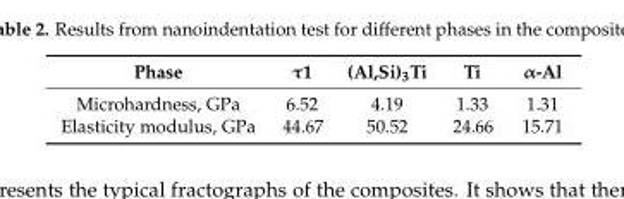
<table><thead><tr><td>Phase</td><td>τ1</td><td>(Al,Si)<sub>3</sub>Ti</td><td>Ti</td><td>α-Al</td></tr></thead><tbody><tr><td>Microhardness, GPa</td><td>6.52</td><td>4.19</td><td>1.33</td><td>1.31</td></tr><tr><td>Elasticity modulus, GPa</td><td>44.67</td><td>50.52</td><td>24.66</td><td>15.71</td></tr></tbody></table>